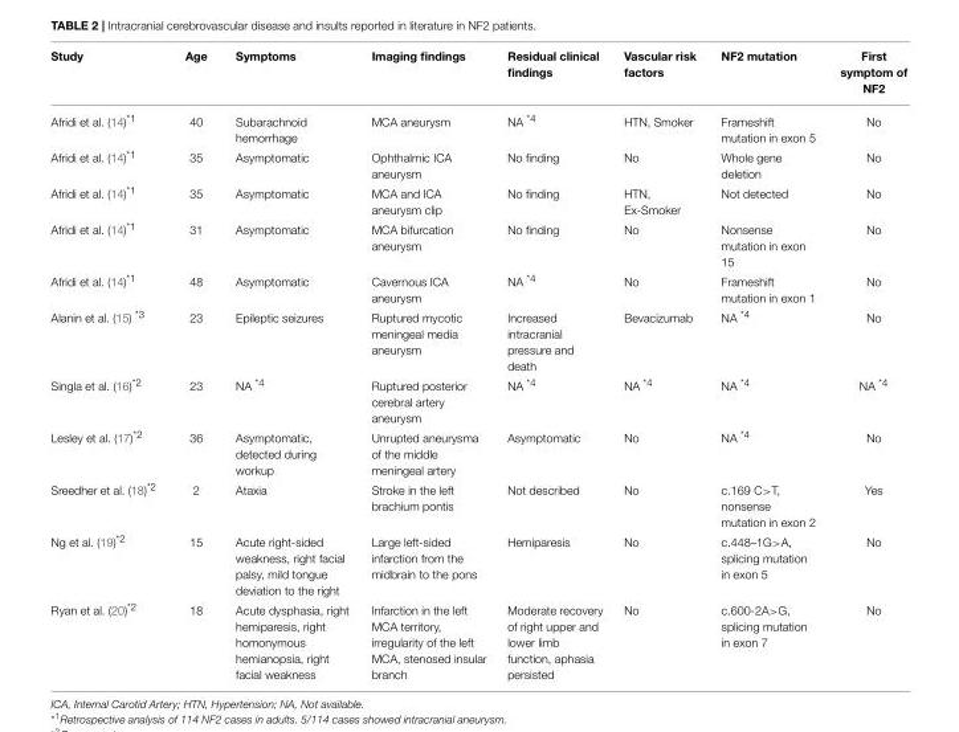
<table><thead><tr><td>Study</td><td>Age</td><td>Symptoms</td><td>Imaging findings</td><td>Residual clinical findings</td><td>Vascular risk factors</td><td>NF2 mutation</td><td>First symptom of NF2</td></tr></thead><tbody><tr><td>Afridi et al. (14)<sup>*1</sup></td><td>40</td><td>Subarachnoid hemorrhage</td><td>MCA aneurysm</td><td>NA <sup>*4</sup></td><td>HTN, Smoker</td><td>Frameshift mutation in exon 5</td><td>No</td></tr><tr><td>Afridi et al. (14)<sup>*1</sup></td><td>35</td><td>Asymptomatic</td><td>Ophthalmic ICA aneurysm</td><td>No finding</td><td>No</td><td>Whole gene deletion</td><td>No</td></tr><tr><td>Afridi et al. (14)<sup>*1</sup></td><td>35</td><td>Asymptomatic</td><td>MCA and ICA aneurysm clip</td><td>No finding</td><td>HTN, Ex-Smoker</td><td>Not detected</td><td>No</td></tr><tr><td>Afridi et al. (14)<sup>*1</sup></td><td>31</td><td>Asymptomatic</td><td>MCA bifurcation aneurysm</td><td>No finding</td><td>No</td><td>Nonsense mutation in exon 15</td><td>No</td></tr><tr><td>Afridi et al. (14)<sup>*1</sup></td><td>48</td><td>Asymptomatic</td><td>Cavernous ICA aneurysm</td><td>NA <sup>*4</sup></td><td>No</td><td>Frameshift mutation in exon 1</td><td>No</td></tr><tr><td>Alanin et al. (15) <sup>*3</sup></td><td>23</td><td>Epileptic seizures</td><td>Ruptured mycotic meningeal media aneurysm</td><td>Increased intracranial pressure and death</td><td>Bevacizumab</td><td>NA <sup>*4</sup></td><td>No</td></tr><tr><td>Singla et al. (16)<sup>*2</sup></td><td>23</td><td>NA <sup>*4</sup></td><td>Ruptured posterior cerebral artery aneurysm</td><td>NA <sup>*4</sup></td><td>NA <sup>*4</sup></td><td>NA <sup>*4</sup></td><td>NA <sup>*4</sup></td></tr><tr><td>Lesley et al. (17)<sup>*2</sup></td><td>36</td><td>Asymptomatic, detected during workup</td><td>Unrupted aneurysma of the middle meningeal artery</td><td>Asymptomatic</td><td>No</td><td>NA <sup>*4</sup></td><td>No</td></tr><tr><td>Sreedher et al. (18)<sup>*2</sup></td><td>2</td><td>Ataxia</td><td>Stroke in the left brachium pontis</td><td>Not described</td><td>No</td><td>c.169 C&gt;T, nonsense mutation in exon 2</td><td>Yes</td></tr><tr><td>Ng et al. (19)<sup>*2</sup></td><td>15</td><td>Acute right-sided weakness, right facial palsy, mild tongue deviation to the right</td><td>Large left-sided infarction from the midbrain to the pons</td><td>Hemiparesis</td><td>No</td><td>c.448–1G&gt;A, splicing mutation in exon 5</td><td>No</td></tr><tr><td>Ryan et al. (20)<sup>*2</sup></td><td>18</td><td>Acute dysphasia, right hemiparesis, right homonymous hemianopsia, right facial weakness</td><td>Infarction in the left MCA territory, irregularity of the left MCA, stenosed insular branch</td><td>Moderate recovery of right upper and lower limb function, aphasia persisted</td><td>No</td><td>c.600-2A&gt;G, splicing mutation in exon 7</td><td>No</td></tr></tbody></table>